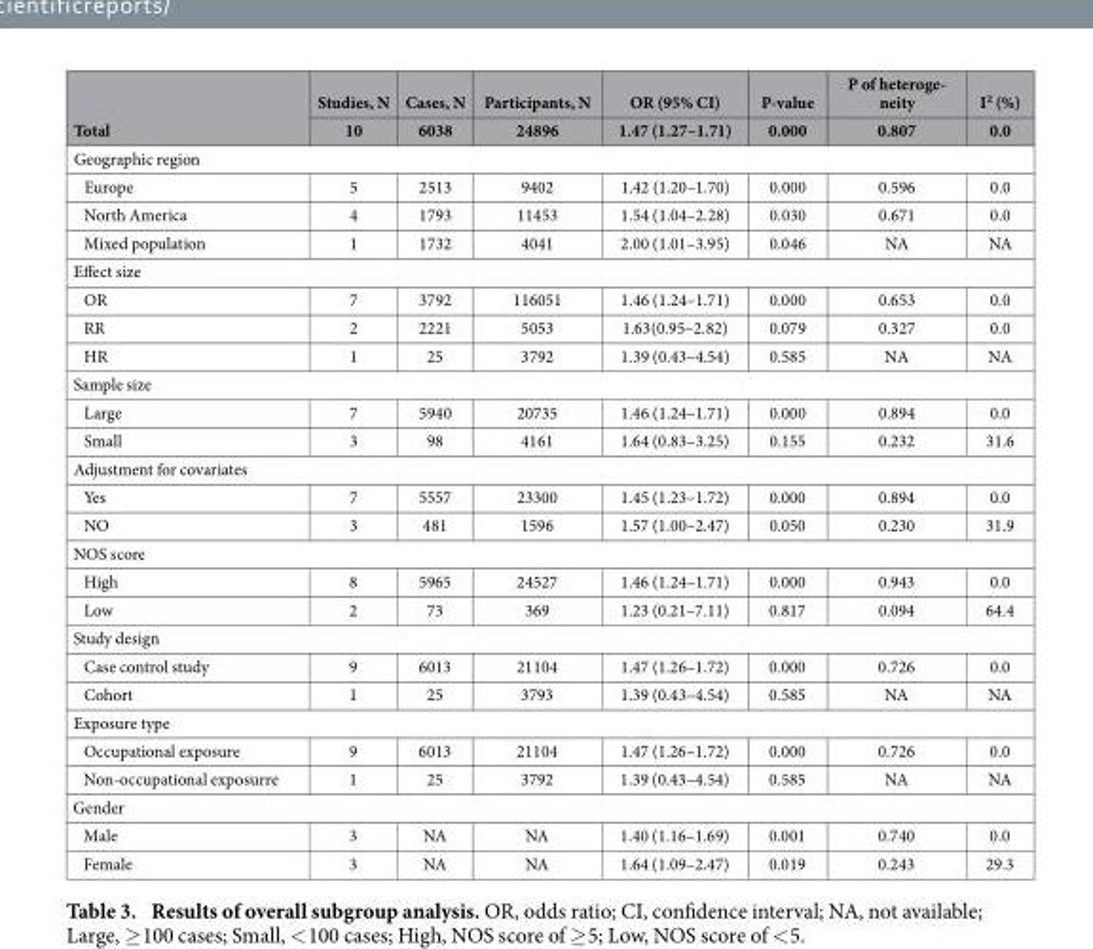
<table><thead><tr><td rowspan="2">Total</td><td rowspan="2">Studies, N 10</td><td rowspan="2">Cases, N 6038</td><td rowspan="2">Participants, N 24896</td><td rowspan="2">OR (95% CI) 1.47 (1.27–1.71)</td><td rowspan="2">P-value 0.000</td><td rowspan="2">P of heteroge- neity 0.807</td><td rowspan="2">I<sup>2</sup> (%) 0.0</td></tr><tr></tr></thead><tbody><tr><td colspan="8">Geographic region</td></tr><tr><td>Europe</td><td>5</td><td>2513</td><td>9402</td><td>1.42 (1.20–1.70)</td><td>0.000</td><td>0.596</td><td>0.0</td></tr><tr><td>North America</td><td>4</td><td>1793</td><td>11453</td><td>1.54 (1.04–2.28)</td><td>0.030</td><td>0.671</td><td>0.0</td></tr><tr><td>Mixed population</td><td>1</td><td>1732</td><td>4041</td><td>2.00 (1.01–3.95)</td><td>0.046</td><td>NA</td><td>NA</td></tr><tr><td colspan="8">Effect size</td></tr><tr><td>OR</td><td>7</td><td>3792</td><td>116051</td><td>1.46 (1.24–1.71)</td><td>0.000</td><td>0.653</td><td>0.0</td></tr><tr><td>RR</td><td>2</td><td>2221</td><td>5053</td><td>1.63(0.95–2.82)</td><td>0.079</td><td>0.327</td><td>0.0</td></tr><tr><td>HR</td><td>1</td><td>25</td><td>3792</td><td>1.39 (0.43–4.54)</td><td>0.585</td><td>NA</td><td>NA</td></tr><tr><td colspan="8">Sample size</td></tr><tr><td>Large</td><td>7</td><td>5940</td><td>20735</td><td>1.46 (1.24–1.71)</td><td>0.000</td><td>0.894</td><td>0.0</td></tr><tr><td>Small</td><td>3</td><td>98</td><td>4161</td><td>1.64 (0.83–3.25)</td><td>0.155</td><td>0.232</td><td>31.6</td></tr><tr><td colspan="8">Adjustment for covariates</td></tr><tr><td>Yes</td><td>7</td><td>5557</td><td>23300</td><td>1.45 (1.23–1.72)</td><td>0.000</td><td>0.894</td><td>0.0</td></tr><tr><td>NO</td><td>3</td><td>481</td><td>1596</td><td>1.57 (1.00–2.47)</td><td>0.050</td><td>0.230</td><td>31.9</td></tr><tr><td colspan="8">NOS score</td></tr><tr><td>High</td><td>8</td><td>5965</td><td>24527</td><td>1.46 (1.24–1.71)</td><td>0.000</td><td>0.943</td><td>0.0</td></tr><tr><td>Low</td><td>2</td><td>73</td><td>369</td><td>1.23 (0.21–7.11)</td><td>0.817</td><td>0.094</td><td>64.4</td></tr><tr><td colspan="8">Study design</td></tr><tr><td>Case control study</td><td>9</td><td>6013</td><td>21104</td><td>1.47 (1.26–1.72)</td><td>0.000</td><td>0.726</td><td>0.0</td></tr><tr><td>Cohort</td><td>1</td><td>25</td><td>3793</td><td>1.39 (0.43–4.54)</td><td>0.585</td><td>NA</td><td>NA</td></tr><tr><td colspan="8">Exposure type</td></tr><tr><td>Occupational exposure</td><td>9</td><td>6013</td><td>21104</td><td>1.47 (1.26–1.72)</td><td>0.000</td><td>0.726</td><td>0.0</td></tr><tr><td>Non-occupational exposurre</td><td>1</td><td>25</td><td>3792</td><td>1.39 (0.43–4.54)</td><td>0.585</td><td>NA</td><td>NA</td></tr><tr><td colspan="8">Gender</td></tr><tr><td>Male</td><td>3</td><td>NA</td><td>NA</td><td>1.40 (1.16–1.69)</td><td>0.001</td><td>0.740</td><td>0.0</td></tr><tr><td>Female</td><td>3</td><td>NA</td><td>NA</td><td>1.64 (1.09–2.47)</td><td>0.019</td><td>0.243</td><td>29.3</td></tr></tbody></table>